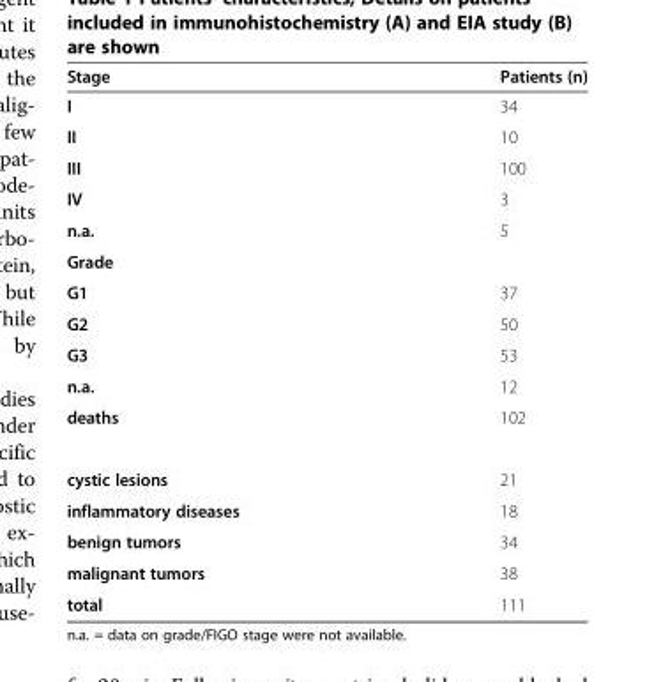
<table><thead><tr><td>Stage</td><td>Patients (n)</td></tr></thead><tbody><tr><td>I</td><td>34</td></tr><tr><td>II</td><td>10</td></tr><tr><td>III</td><td>100</td></tr><tr><td>IV</td><td>3</td></tr><tr><td>n.a.</td><td>5</td></tr><tr><td colspan="2">Grade</td></tr><tr><td>G1</td><td>37</td></tr><tr><td>G2</td><td>50</td></tr><tr><td>G3</td><td>53</td></tr><tr><td>n.a.</td><td>12</td></tr><tr><td>deaths</td><td>102</td></tr><tr><td>cystic lesions</td><td>21</td></tr><tr><td>inflammatory diseases</td><td>18</td></tr><tr><td>benign tumors</td><td>34</td></tr><tr><td>malignant tumors</td><td>38</td></tr><tr><td>total</td><td>111</td></tr></tbody></table>